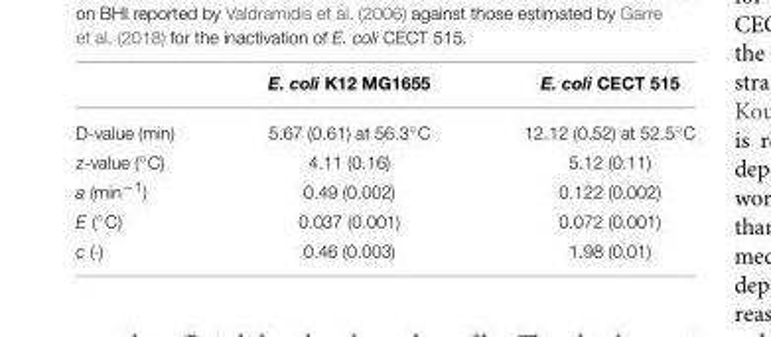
<table><thead><tr><td></td><td>E. coli K12 MG1655</td><td>E. coli CECT 515</td></tr></thead><tbody><tr><td>D-value (min)</td><td>5.67 (0.61) at 56.3◦C</td><td>12.12 (0.52) at 52.5◦C</td></tr><tr><td>z-value (◦C)</td><td>4.11 (0.16)</td><td>5.12 (0.11)</td></tr><tr><td>a (min<sup>−1</sup>)</td><td>0.49 (0.002)</td><td>0.122 (0.002)</td></tr><tr><td>E (◦C)</td><td>0.037 (0.001)</td><td>0.072 (0.001)</td></tr><tr><td>c (·)</td><td>0.46 (0.003)</td><td>1.98 (0.01)</td></tr></tbody></table>